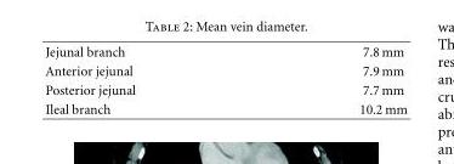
<table><tbody><tr><td>Jejunal branch</td><td>7.8 mm</td></tr><tr><td>Anterior jejunal</td><td>7.9 mm</td></tr><tr><td>Posterior jejunal</td><td>7.7 mm</td></tr><tr><td>Ileal branch</td><td>10.2 mm</td></tr></tbody></table>